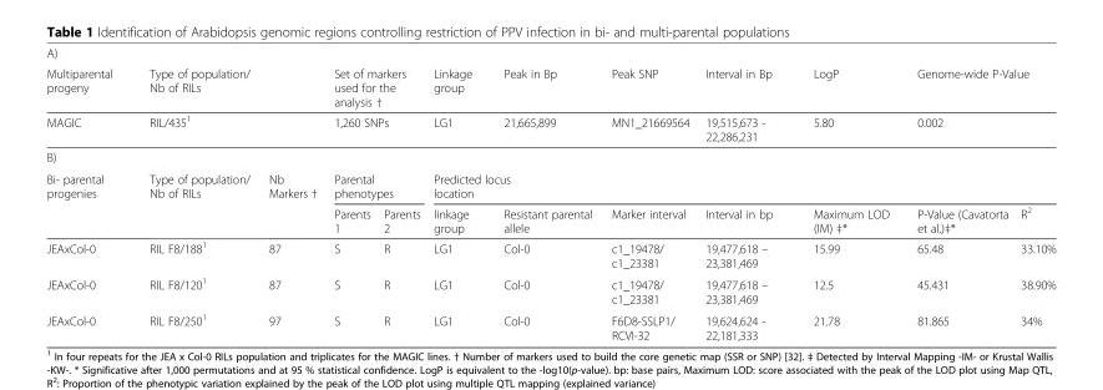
<table><thead><tr><td rowspan="2">A) Multiparental progeny</td><td></td><td></td><td></td><td></td><td rowspan="2">Linkage group</td><td rowspan="2">Peak in Bp</td><td rowspan="2">Peak SNP</td><td rowspan="2">Interval in Bp</td><td rowspan="2">LogP</td><td></td><td></td></tr><tr><td colspan="2">Type of population/ Nb of RILs</td><td colspan="2">Set of markers used for the analysis †</td><td colspan="2">Genome-wide P-Value</td></tr></thead><tbody><tr><td>MAGIC</td><td colspan="2">RIL/435<sup>1</sup></td><td colspan="2">1,260 SNPs</td><td>LG1</td><td>21,665,899</td><td>MN1_21669564</td><td>19,515,673 - 22,286,231</td><td>5.80</td><td colspan="2">0.002</td></tr><tr><td colspan="12">B)</td></tr><tr><td rowspan="2">Bi- parental progenies</td><td rowspan="2">Type of population/ Nb of RILs</td><td rowspan="2">Nb Markers †</td><td colspan="2">Parental phenotypes</td><td colspan="7">Predicted locus location</td></tr><tr><td>Parents 1</td><td>Parents 2</td><td>linkage group</td><td>Resistant parental allele</td><td>Marker interval</td><td>Interval in bp</td><td>Maximum LOD (IM) ‡*</td><td>P-Value (Cavatorta et al.)‡*</td><td>R<sup>2</sup></td></tr><tr><td>JEAxCol-0</td><td>RIL F8/188<sup>1</sup></td><td>87</td><td>S</td><td>R</td><td>LG1</td><td>Col-0</td><td>c1_19478/ c1_23381</td><td>19,477,618 – 23,381,469</td><td>15.99</td><td>65.48</td><td>33.10%</td></tr><tr><td>JEAxCol-0</td><td>RIL F8/120<sup>1</sup></td><td>87</td><td>S</td><td>R</td><td>LG1</td><td>Col-0</td><td>c1_19478/ c1_23381</td><td>19,477,618 – 23,381,469</td><td>12.5</td><td>45.431</td><td>38.90%</td></tr><tr><td>JEAxCol-0</td><td>RIL F8/250<sup>1</sup></td><td>97</td><td>S</td><td>R</td><td>LG1</td><td>Col-0</td><td>F6D8-SSLP1/ RCVI-32</td><td>19,624,624 - 22,181,333</td><td>21.78</td><td>81.865</td><td>34%</td></tr></tbody></table>